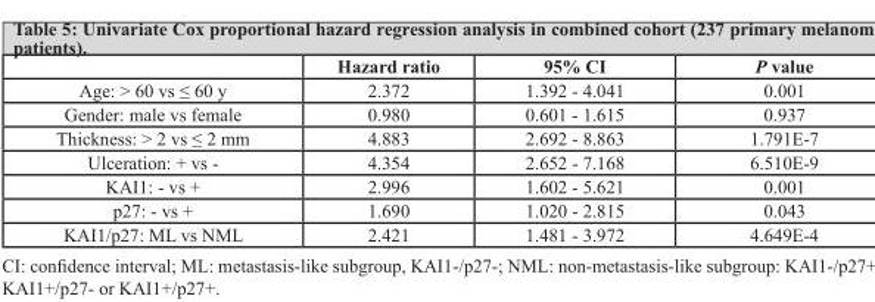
<table><thead><tr><td></td><td>Hazard ratio</td><td>95% CI</td><td>P value</td></tr></thead><tbody><tr><td>Age: &gt; 60 vs ≤ 60 y</td><td>2.372</td><td>1.392 - 4.041</td><td>0.001</td></tr><tr><td>Gender: male vs female</td><td>0.980</td><td>0.601 - 1.615</td><td>0.937</td></tr><tr><td>Thickness: &gt; 2 vs ≤ 2 mm</td><td>4.883</td><td>2.692 - 8.863</td><td>1.791E-7</td></tr><tr><td>Ulceration: + vs -</td><td>4.354</td><td>2.652 - 7.168</td><td>6.510E-9</td></tr><tr><td>KAI1: - vs +</td><td>2.996</td><td>1.602 - 5.621</td><td>0.001</td></tr><tr><td>p27: - vs +</td><td>1.690</td><td>1.020 - 2.815</td><td>0.043</td></tr><tr><td>KAI1/p27: ML vs NML</td><td>2.421</td><td>1.481 - 3.972</td><td>4.649E-4</td></tr></tbody></table>